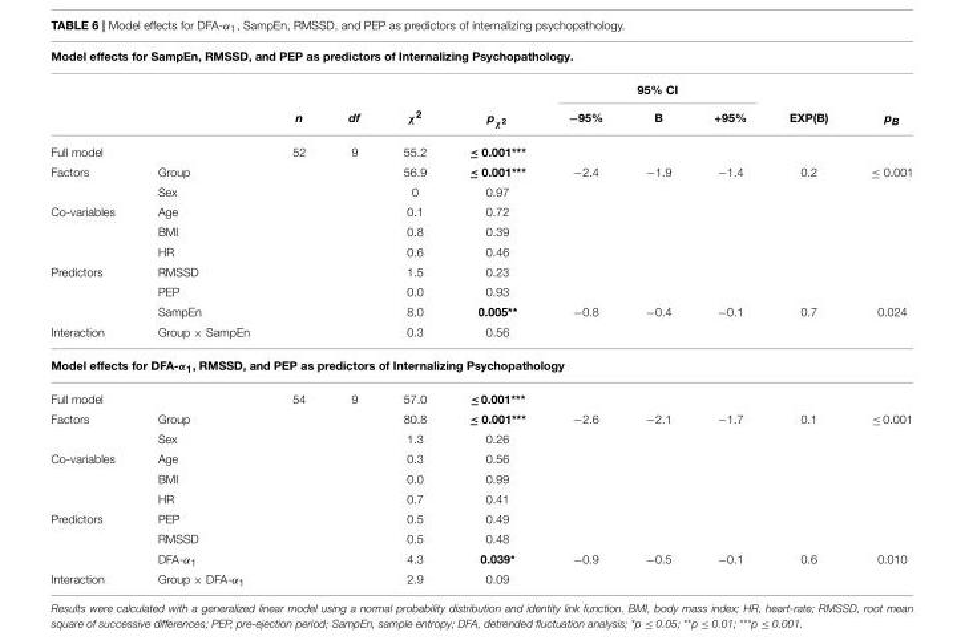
<table><thead><tr><td colspan="11">Model effects for SampEn, RMSSD, and PEP as predictors of Internalizing Psychopathology.</td></tr><tr><td rowspan="2"></td><td rowspan="2"></td><td rowspan="2">n</td><td rowspan="2">df</td><td rowspan="2">χ<sup>2</sup></td><td rowspan="2">p<sub>χ</sub><sup><sub>2</sub></sup></td><td colspan="3">95% CI</td><td rowspan="2">EXP(B)</td><td rowspan="2">p<sub>B</sub></td></tr><tr><td>−95%</td><td>B</td><td>+95%</td></tr></thead><tbody><tr><td>Full model</td><td></td><td>52</td><td>9</td><td>55.2</td><td>≤ 0.001***</td><td></td><td></td><td></td><td></td><td></td></tr><tr><td rowspan="2">Factors</td><td>Group</td><td></td><td></td><td>56.9</td><td>≤ 0.001***</td><td>−2.4</td><td>−1.9</td><td>−1.4</td><td>0.2</td><td>≤ 0.001</td></tr><tr><td>Sex</td><td></td><td></td><td>0</td><td>0.97</td><td></td><td></td><td></td><td></td><td></td></tr><tr><td rowspan="3">Co-variables</td><td>Age</td><td></td><td></td><td>0.1</td><td>0.72</td><td></td><td></td><td></td><td></td><td></td></tr><tr><td>BMI</td><td></td><td></td><td>0.8</td><td>0.39</td><td></td><td></td><td></td><td></td><td></td></tr><tr><td>HR</td><td></td><td></td><td>0.6</td><td>0.46</td><td></td><td></td><td></td><td></td><td></td></tr><tr><td rowspan="3">Predictors</td><td>RMSSD</td><td></td><td></td><td>1.5</td><td>0.23</td><td></td><td></td><td></td><td></td><td></td></tr><tr><td>PEP</td><td></td><td></td><td>0.0</td><td>0.93</td><td></td><td></td><td></td><td></td><td></td></tr><tr><td>SampEn</td><td></td><td></td><td>8.0</td><td>0.005**</td><td>−0.8</td><td>−0.4</td><td>−0.1</td><td>0.7</td><td>0.024</td></tr><tr><td>Interaction</td><td>Group × SampEn</td><td></td><td></td><td>0.3</td><td>0.56</td><td></td><td></td><td></td><td></td><td></td></tr><tr><td colspan="11">Model effects for DFA-α<sub>1</sub>, RMSSD, and PEP as predictors of Internalizing Psychopathology</td></tr><tr><td>Full model</td><td></td><td>54</td><td>9</td><td>57.0</td><td>≤ 0.001***</td><td></td><td></td><td></td><td></td><td></td></tr><tr><td rowspan="2">Factors</td><td>Group</td><td></td><td></td><td>80.8</td><td>≤ 0.001***</td><td>−2.6</td><td>−2.1</td><td>−1.7</td><td>0.1</td><td>≤ 0.001</td></tr><tr><td>Sex</td><td></td><td></td><td>1.3</td><td>0.26</td><td></td><td></td><td></td><td></td><td></td></tr><tr><td rowspan="3">Co-variables</td><td>Age</td><td></td><td></td><td>0.3</td><td>0.56</td><td></td><td></td><td></td><td></td><td></td></tr><tr><td>BMI</td><td></td><td></td><td>0.0</td><td>0.99</td><td></td><td></td><td></td><td></td><td></td></tr><tr><td>HR</td><td></td><td></td><td>0.7</td><td>0.41</td><td></td><td></td><td></td><td></td><td></td></tr><tr><td rowspan="3">Predictors</td><td>PEP</td><td></td><td></td><td>0.5</td><td>0.49</td><td></td><td></td><td></td><td></td><td></td></tr><tr><td>RMSSD</td><td></td><td></td><td>0.5</td><td>0.48</td><td></td><td></td><td></td><td></td><td></td></tr><tr><td>DFA-α<sub>1</sub></td><td></td><td></td><td>4.3</td><td>0.039*</td><td>−0.9</td><td>−0.5</td><td>−0.1</td><td>0.6</td><td>0.010</td></tr><tr><td>Interaction</td><td>Group × DFA-α<sub>1</sub></td><td></td><td></td><td>2.9</td><td>0.09</td><td></td><td></td><td></td><td></td><td></td></tr></tbody></table>